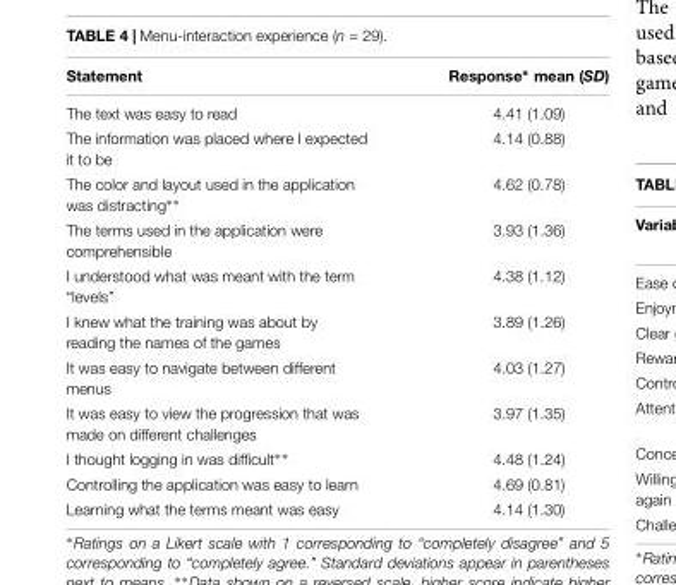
<table><thead><tr><td>Statement</td><td>Response∗ mean (SD)</td></tr></thead><tbody><tr><td>The text was easy to read</td><td>4.41 (1.09)</td></tr><tr><td>The information was placed where I expected it to be</td><td>4.14 (0.88)</td></tr><tr><td>The color and layout used in the application was distracting∗∗</td><td>4.62 (0.78)</td></tr><tr><td>The terms used in the application were comprehensible</td><td>3.93 (1.36)</td></tr><tr><td>I understood what was meant with the term “levels”</td><td>4.38 (1.12)</td></tr><tr><td>I knew what the training was about by reading the names of the games</td><td>3.89 (1.26)</td></tr><tr><td>It was easy to navigate between different menus</td><td>4.03 (1.27)</td></tr><tr><td>It was easy to view the progression that was made on different challenges</td><td>3.97 (1.35)</td></tr><tr><td>I thought logging in was difficult∗∗</td><td>4.48 (1.24)</td></tr><tr><td>Controlling the application was easy to learn</td><td>4.69 (0.81)</td></tr><tr><td>Learning what the terms meant was easy</td><td>4.14 (1.30)</td></tr></tbody></table>